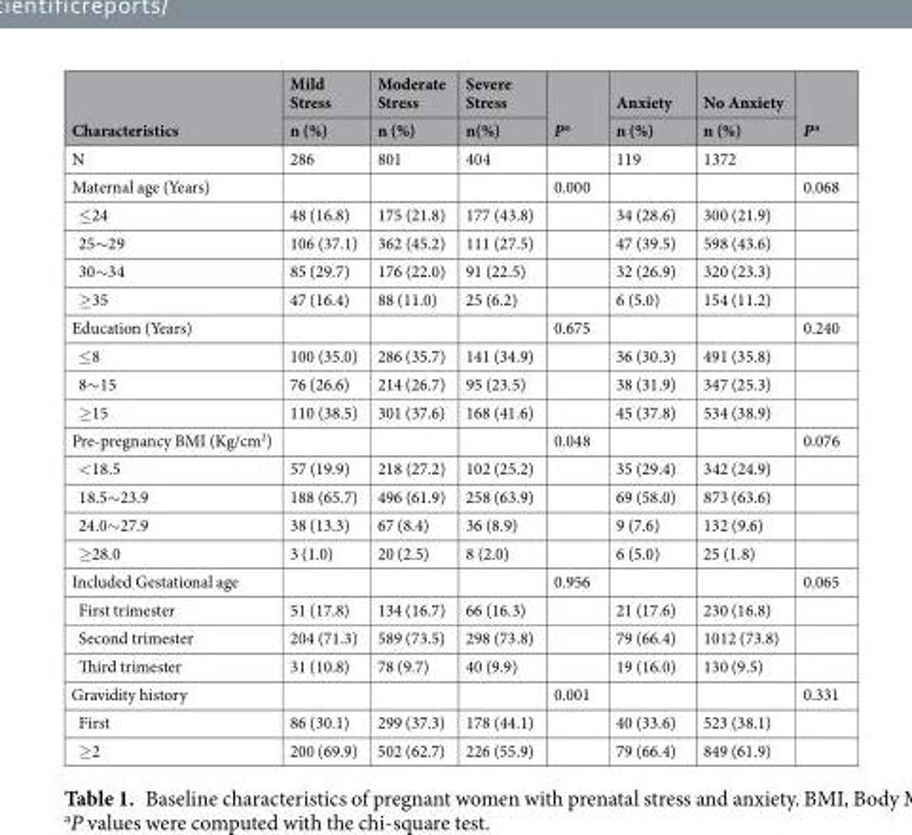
<table><thead><tr><td rowspan="2">Characteristics</td><td rowspan="2">Mild Stress n (%)</td><td rowspan="2">Moderate Stress n (%)</td><td rowspan="2">Severe Stress n(%)</td><td rowspan="2">P <sup>a</sup></td><td rowspan="2">Anxiety n (%)</td><td rowspan="2">No Anxiety n (%)</td><td rowspan="2">P <sup>a</sup></td></tr><tr></tr></thead><tbody><tr><td>N</td><td>286</td><td>801</td><td>404</td><td></td><td>119</td><td>1372</td><td></td></tr><tr><td>Maternal age (Years)</td><td></td><td></td><td></td><td>0.000</td><td></td><td></td><td>0.068</td></tr><tr><td>≤24</td><td>48 (16.8)</td><td>175 (21.8)</td><td>177 (43.8)</td><td></td><td>34 (28.6)</td><td>300 (21.9)</td><td></td></tr><tr><td>25∼29</td><td>106 (37.1)</td><td>362 (45.2)</td><td>111 (27.5)</td><td></td><td>47 (39.5)</td><td>598 (43.6)</td><td></td></tr><tr><td>30∼34</td><td>85 (29.7)</td><td>176 (22.0)</td><td>91 (22.5)</td><td></td><td>32 (26.9)</td><td>320 (23.3)</td><td></td></tr><tr><td>≥35</td><td>47 (16.4)</td><td>88 (11.0)</td><td>25 (6.2)</td><td></td><td>6 (5.0)</td><td>154 (11.2)</td><td></td></tr><tr><td>Education (Years)</td><td></td><td></td><td></td><td>0.675</td><td></td><td></td><td>0.240</td></tr><tr><td>≤8</td><td>100 (35.0)</td><td>286 (35.7)</td><td>141 (34.9)</td><td></td><td>36 (30.3)</td><td>491 (35.8)</td><td></td></tr><tr><td>8∼15</td><td>76 (26.6)</td><td>214 (26.7)</td><td>95 (23.5)</td><td></td><td>38 (31.9)</td><td>347 (25.3)</td><td></td></tr><tr><td>≥15</td><td>110 (38.5)</td><td>301 (37.6)</td><td>168 (41.6)</td><td></td><td>45 (37.8)</td><td>534 (38.9)</td><td></td></tr><tr><td>Pre-pregnancy BMI (Kg/cm<sup>2</sup>)</td><td></td><td></td><td></td><td>0.048</td><td></td><td></td><td>0.076</td></tr><tr><td>&lt;18.5</td><td>57 (19.9)</td><td>218 (27.2)</td><td>102 (25.2)</td><td></td><td>35 (29.4)</td><td>342 (24.9)</td><td></td></tr><tr><td>18.5∼23.9</td><td>188 (65.7)</td><td>496 (61.9)</td><td>258 (63.9)</td><td></td><td>69 (58.0)</td><td>873 (63.6)</td><td></td></tr><tr><td>24.0∼27.9</td><td>38 (13.3)</td><td>67 (8.4)</td><td>36 (8.9)</td><td></td><td>9 (7.6)</td><td>132 (9.6)</td><td></td></tr><tr><td>≥28.0</td><td>3 (1.0)</td><td>20 (2.5)</td><td>8 (2.0)</td><td></td><td>6 (5.0)</td><td>25 (1.8)</td><td></td></tr><tr><td>Included Gestational age</td><td></td><td></td><td></td><td>0.956</td><td></td><td></td><td>0.065</td></tr><tr><td>First trimester</td><td>51 (17.8)</td><td>134 (16.7)</td><td>66 (16.3)</td><td></td><td>21 (17.6)</td><td>230 (16.8)</td><td></td></tr><tr><td>Second trimester</td><td>204 (71.3)</td><td>589 (73.5)</td><td>298 (73.8)</td><td></td><td>79 (66.4)</td><td>1012 (73.8)</td><td></td></tr><tr><td>Third trimester</td><td>31 (10.8)</td><td>78 (9.7)</td><td>40 (9.9)</td><td></td><td>19 (16.0)</td><td>130 (9.5)</td><td></td></tr><tr><td>Gravidity history</td><td></td><td></td><td></td><td>0.001</td><td></td><td></td><td>0.331</td></tr><tr><td>First</td><td>86 (30.1)</td><td>299 (37.3)</td><td>178 (44.1)</td><td></td><td>40 (33.6)</td><td>523 (38.1)</td><td></td></tr><tr><td>≥2</td><td>200 (69.9)</td><td>502 (62.7)</td><td>226 (55.9)</td><td></td><td>79 (66.4)</td><td>849 (61.9)</td><td></td></tr></tbody></table>